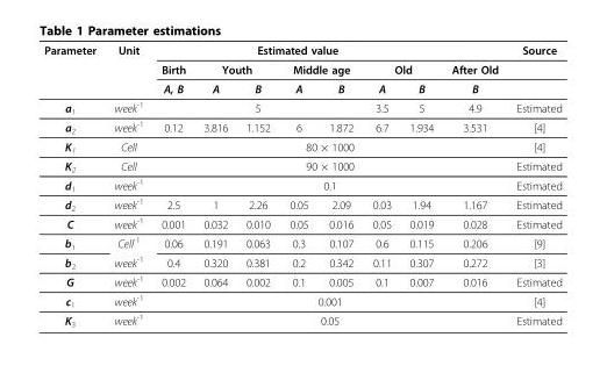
<table><thead><tr><td rowspan="3">Parameter</td><td rowspan="3">Unit</td><td colspan="7">Estimated value</td><td rowspan="3">After Old B</td><td rowspan="3">Source</td></tr><tr><td rowspan="2">Birth A, B</td><td colspan="2">Youth</td><td colspan="2">Middle age</td><td colspan="2">Old</td></tr><tr><td>A</td><td>B</td><td>A</td><td>B</td><td>A</td><td>B</td></tr></thead><tbody><tr><td>a<sub>1</sub></td><td>week<sup>-1</sup></td><td colspan="5">5</td><td>3.5</td><td>5</td><td>4.9</td><td>Estimated</td></tr><tr><td>a<sub>2</sub></td><td>week<sup>-1</sup></td><td>0.12</td><td>3.816</td><td>1.152</td><td>6</td><td>1.872</td><td>6.7</td><td>1.934</td><td>3.531</td><td>[4]</td></tr><tr><td>K<sub>1</sub></td><td>Cell</td><td colspan="8">80 × 1000</td><td>[4]</td></tr><tr><td>K<sub>2</sub></td><td>Cell</td><td colspan="8">90 × 1000</td><td>Estimated</td></tr><tr><td>d<sub>1</sub></td><td>week<sup>-1</sup></td><td colspan="8">0.1</td><td>Estimated</td></tr><tr><td>d<sub>2</sub></td><td>week<sup>-1</sup></td><td>2.5</td><td>1</td><td>2.26</td><td>0.05</td><td>2.09</td><td>0.03</td><td>1.94</td><td>1.167</td><td>Estimated</td></tr><tr><td>C</td><td>week<sup>-1</sup></td><td>0.001</td><td>0.032</td><td>0.010</td><td>0.05</td><td>0.016</td><td>0.05</td><td>0.019</td><td>0.028</td><td>Estimated</td></tr><tr><td>b<sub>1</sub></td><td>Cell<sup>-1</sup></td><td>0.06</td><td>0.191</td><td>0.063</td><td>0.3</td><td>0.107</td><td>0.6</td><td>0.115</td><td>0.206</td><td>[9]</td></tr><tr><td>b<sub>2</sub></td><td>week<sup>-1</sup></td><td>0.4</td><td>0.320</td><td>0.381</td><td>0.2</td><td>0.342</td><td>0.11</td><td>0.307</td><td>0.272</td><td>[3]</td></tr><tr><td>G</td><td>week<sup>-1</sup></td><td>0.002</td><td>0.064</td><td>0.002</td><td>0.1</td><td>0.005</td><td>0.1</td><td>0.007</td><td>0.016</td><td>Estimated</td></tr><tr><td>c<sub>1</sub></td><td>week<sup>-1</sup></td><td colspan="8">0.001</td><td>[4]</td></tr><tr><td>K<sub>3</sub></td><td>week<sup>-1</sup></td><td colspan="8">0.05</td><td>Estimated</td></tr></tbody></table>